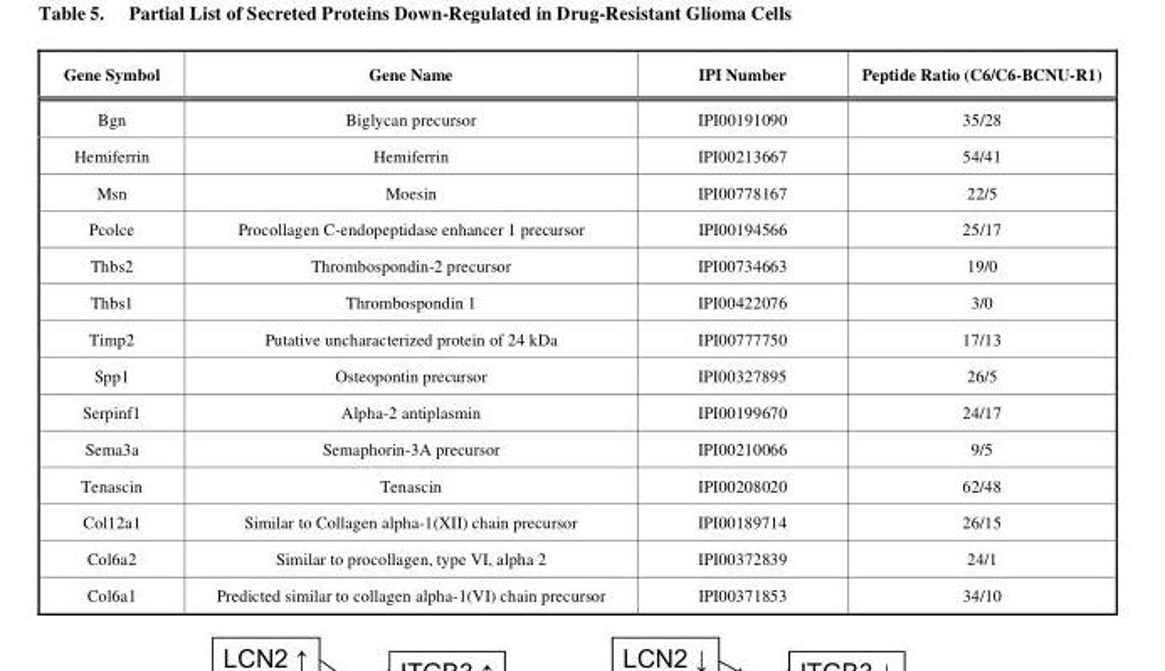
<table><thead><tr><td>Gene Symbol</td><td>Gene Name</td><td>IPI Number</td><td>Peptide Ratio (C6/C6-BCNU-R1)</td></tr></thead><tbody><tr><td>Bgn</td><td>Biglycan precursor</td><td>IPI00191090</td><td>35/28</td></tr><tr><td>Hemiferrin</td><td>Hemiferrin</td><td>IPI00213667</td><td>54/41</td></tr><tr><td>Msn</td><td>Moesin</td><td>IPI00778167</td><td>22/5</td></tr><tr><td>Pcolce</td><td>Procollagen C-endopeptidase enhancer 1 precursor</td><td>IPI00194566</td><td>25/17</td></tr><tr><td>Thbs2</td><td>Thrombospondin-2 precursor</td><td>IPI00734663</td><td>19/0</td></tr><tr><td>Thbs1</td><td>Thrombospondin 1</td><td>IPI00422076</td><td>3/0</td></tr><tr><td>Timp2</td><td>Putative uncharacterized protein of 24 kDa</td><td>IPI00777750</td><td>17/13</td></tr><tr><td>Spp1</td><td>Osteopontin precursor</td><td>IPI00327895</td><td>26/5</td></tr><tr><td>Serpinf1</td><td>Alpha-2 antiplasmin</td><td>IPI00199670</td><td>24/17</td></tr><tr><td>Sema3a</td><td>Semaphorin-3A precursor</td><td>IPI00210066</td><td>9/5</td></tr><tr><td>Tenascin</td><td>Tenascin</td><td>IPI00208020</td><td>62/48</td></tr><tr><td>Col12a1</td><td>Similar to Collagen alpha-1(XII) chain precursor</td><td>IPI00189714</td><td>26/15</td></tr><tr><td>Col6a2</td><td>Similar to procollagen, type VI, alpha 2</td><td>IPI00372839</td><td>24/1</td></tr><tr><td>Col6a1</td><td>Predicted similar to collagen alpha-1(VI) chain precursor</td><td>IPI00371853</td><td>34/10</td></tr></tbody></table>